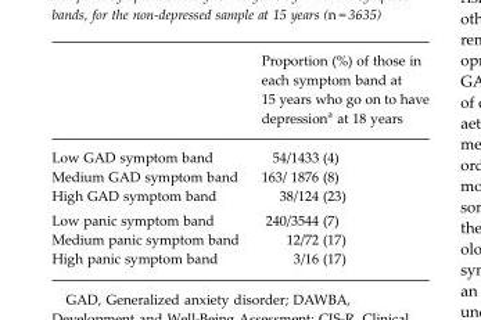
<table><thead><tr><td></td><td>Proportion (%) of those in each symptom band at 15 years who go on to have depression<sup>a</sup> at 18 years</td></tr></thead><tbody><tr><td>Low GAD symptom band</td><td>54/1433 (4)</td></tr><tr><td>Medium GAD symptom band</td><td>163/ 1876 (8)</td></tr><tr><td>High GAD symptom band</td><td>38/124 (23)</td></tr><tr><td>Low panic symptom band</td><td>240/3544 (7)</td></tr><tr><td>Medium panic symptom band</td><td>12/72 (17)</td></tr><tr><td>High panic symptom band</td><td>3/16 (17)</td></tr></tbody></table>